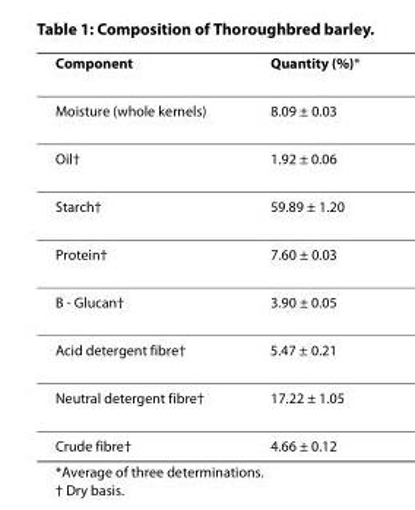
<table><thead><tr><td>Component</td><td>Quantity (%)*</td></tr></thead><tbody><tr><td>Moisture (whole kernels)</td><td>8.09 ± 0.03</td></tr><tr><td>Oil†</td><td>1.92 ± 0.06</td></tr><tr><td>Starch†</td><td>59.89 ± 1.20</td></tr><tr><td>Protein†</td><td>7.60 ± 0.03</td></tr><tr><td>B - Glucan†</td><td>3.90 ± 0.05</td></tr><tr><td>Acid detergent fibre†</td><td>5.47 ± 0.21</td></tr><tr><td>Neutral detergent fibre†</td><td>17.22 ± 1.05</td></tr><tr><td>Crude fibre†</td><td>4.66 ± 0.12</td></tr></tbody></table>